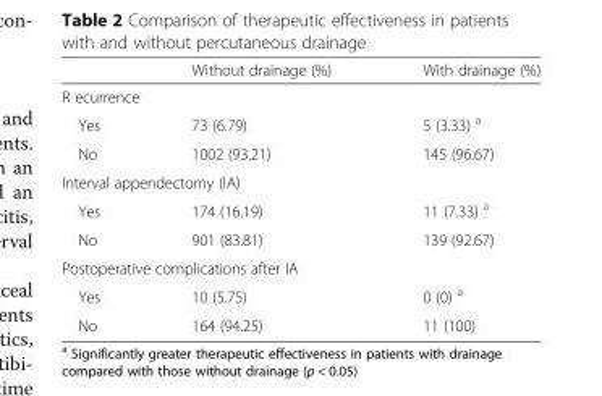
<table><thead><tr><td></td><td>Without drainage (%)</td><td>With drainage (%)</td></tr></thead><tbody><tr><td colspan="3">R ecurrence</td></tr><tr><td>Yes</td><td>73 (6.79)</td><td>5 (3.33) <sup>a</sup></td></tr><tr><td>No</td><td>1002 (93.21)</td><td>145 (96.67)</td></tr><tr><td colspan="3">Interval appendectomy (IA)</td></tr><tr><td>Yes</td><td>174 (16.19)</td><td>11 (7.33) <sup>a</sup></td></tr><tr><td>No</td><td>901 (83.81)</td><td>139 (92.67)</td></tr><tr><td colspan="3">Postoperative complications after IA</td></tr><tr><td>Yes</td><td>10 (5.75)</td><td>0 (0) <sup>a</sup></td></tr><tr><td>No</td><td>164 (94.25)</td><td>11 (100)</td></tr></tbody></table>